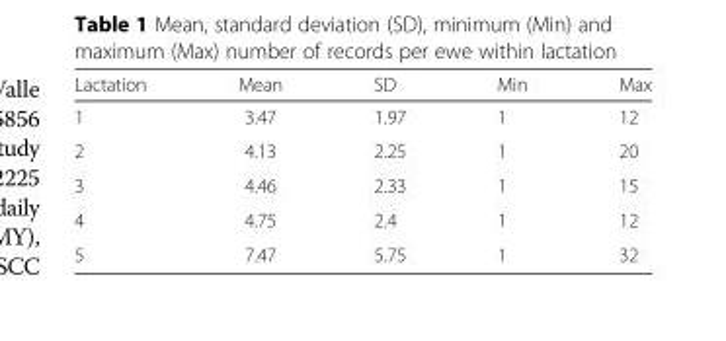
<table><thead><tr><td>Lactation</td><td>Mean</td><td>SD</td><td>Min</td><td>Max</td></tr></thead><tbody><tr><td>1</td><td>3.47</td><td>1.97</td><td>1</td><td>12</td></tr><tr><td>2</td><td>4.13</td><td>2.25</td><td>1</td><td>20</td></tr><tr><td>3</td><td>4.46</td><td>2.33</td><td>1</td><td>15</td></tr><tr><td>4</td><td>4.75</td><td>2.4</td><td>1</td><td>12</td></tr><tr><td>5</td><td>7.47</td><td>5.75</td><td>1</td><td>32</td></tr></tbody></table>